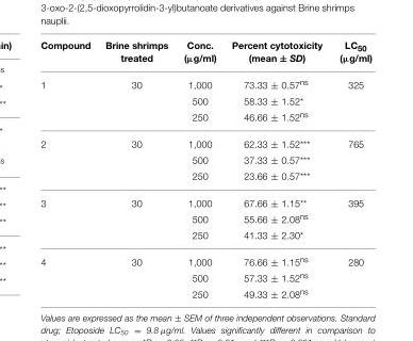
<table><thead><tr><td>Compound</td><td>Brine shrimps treated</td><td>Conc. (µg/ml)</td><td>Percent cytotoxicity (mean ± SD)</td><td>LC<sub>50</sub> (µg/ml)</td></tr></thead><tbody><tr><td rowspan="3">1</td><td>30</td><td>1,000</td><td>73.33 ± 0.57<sup>ns</sup></td><td>325</td></tr><tr><td></td><td>500</td><td>58.33 ± 1.52*</td><td></td></tr><tr><td></td><td>250</td><td>46.66 ± 1.52<sup>ns</sup></td><td></td></tr><tr><td rowspan="3">2</td><td>30</td><td>1,000</td><td>62.33 ± 1.52***</td><td>765</td></tr><tr><td></td><td>500</td><td>37.33 ± 0.57***</td><td></td></tr><tr><td></td><td>250</td><td>23.66 ± 0.57***</td><td></td></tr><tr><td rowspan="3">3</td><td>30</td><td>1,000</td><td>67.66 ± 1.15**</td><td>395</td></tr><tr><td></td><td>500</td><td>55.66 ± 2.08<sup>ns</sup></td><td></td></tr><tr><td></td><td>250</td><td>41.33 ± 2.30*</td><td></td></tr><tr><td rowspan="3">4</td><td>30</td><td>1,000</td><td>76.66 ± 1.15<sup>ns</sup></td><td>280</td></tr><tr><td></td><td>500</td><td>57.33 ± 1.52<sup>ns</sup></td><td></td></tr><tr><td></td><td>250</td><td>49.33 ± 2.08<sup>ns</sup></td><td></td></tr></tbody></table>